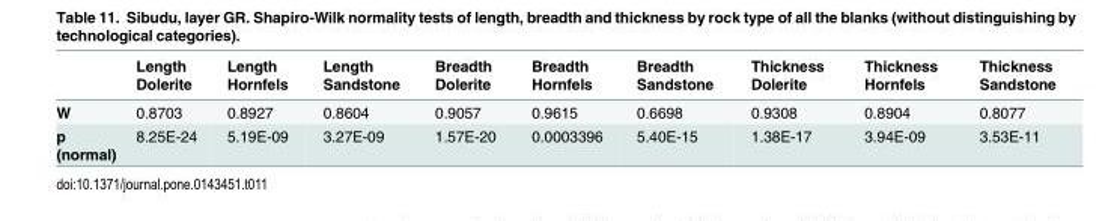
<table><thead><tr><td></td><td>Length Dolerite</td><td>Length Hornfels</td><td>Length Sandstone</td><td>Breadth Dolerite</td><td>Breadth Hornfels</td><td>Breadth Sandstone</td><td>Thickness Dolerite</td><td>Thickness Hornfels</td><td>Thickness Sandstone</td></tr></thead><tbody><tr><td>W</td><td>0.8703</td><td>0.8927</td><td>0.8604</td><td>0.9057</td><td>0.9615</td><td>0.6698</td><td>0.9308</td><td>0.8904</td><td>0.8077</td></tr><tr><td>p (normal)</td><td>8.25E-24</td><td>5.19E-09</td><td>3.27E-09</td><td>1.57E-20</td><td>0.0003396</td><td>5.40E-15</td><td>1.38E-17</td><td>3.94E-09</td><td>3.53E-11</td></tr></tbody></table>